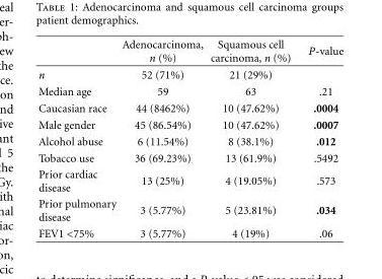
<table><thead><tr><td></td><td>Adenocarcinoma, n (%)</td><td>Squamous cell carcinoma, n (%)</td><td>P-value</td></tr></thead><tbody><tr><td>n</td><td>52 (71%)</td><td>21 (29%)</td><td></td></tr><tr><td>Median age</td><td>59</td><td>63</td><td>.21</td></tr><tr><td>Caucasian race</td><td>44 (8462%)</td><td>10 (47.62%)</td><td>.0004</td></tr><tr><td>Male gender</td><td>45 (86.54%)</td><td>10 (47.62%)</td><td>.0007</td></tr><tr><td>Alcohol abuse</td><td>6 (11.54%)</td><td>8 (38.1%)</td><td>.012</td></tr><tr><td>Tobacco use</td><td>36 (69.23%)</td><td>13 (61.9%)</td><td>.5492</td></tr><tr><td>Prior cardiac disease</td><td>13 (25%)</td><td>4 (19.05%)</td><td>.573</td></tr><tr><td>Prior pulmonary disease</td><td>3 (5.77%)</td><td>5 (23.81%)</td><td>.034</td></tr><tr><td>FEV1 &lt;75%</td><td>3 (5.77%)</td><td>4 (19%)</td><td>.06</td></tr></tbody></table>